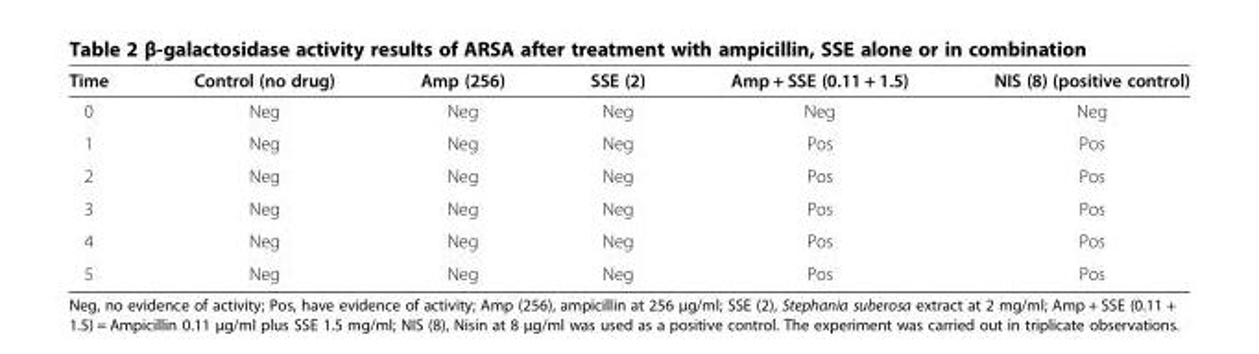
<table><thead><tr><td>Time</td><td>Control (no drug)</td><td>Amp (256)</td><td>SSE (2)</td><td>Amp + SSE (0.11 + 1.5)</td><td>NIS (8) (positive control)</td></tr></thead><tbody><tr><td>0</td><td>Neg</td><td>Neg</td><td>Neg</td><td>Neg</td><td>Neg</td></tr><tr><td>1</td><td>Neg</td><td>Neg</td><td>Neg</td><td>Pos</td><td>Pos</td></tr><tr><td>2</td><td>Neg</td><td>Neg</td><td>Neg</td><td>Pos</td><td>Pos</td></tr><tr><td>3</td><td>Neg</td><td>Neg</td><td>Neg</td><td>Pos</td><td>Pos</td></tr><tr><td>4</td><td>Neg</td><td>Neg</td><td>Neg</td><td>Pos</td><td>Pos</td></tr><tr><td>5</td><td>Neg</td><td>Neg</td><td>Neg</td><td>Pos</td><td>Pos</td></tr></tbody></table>